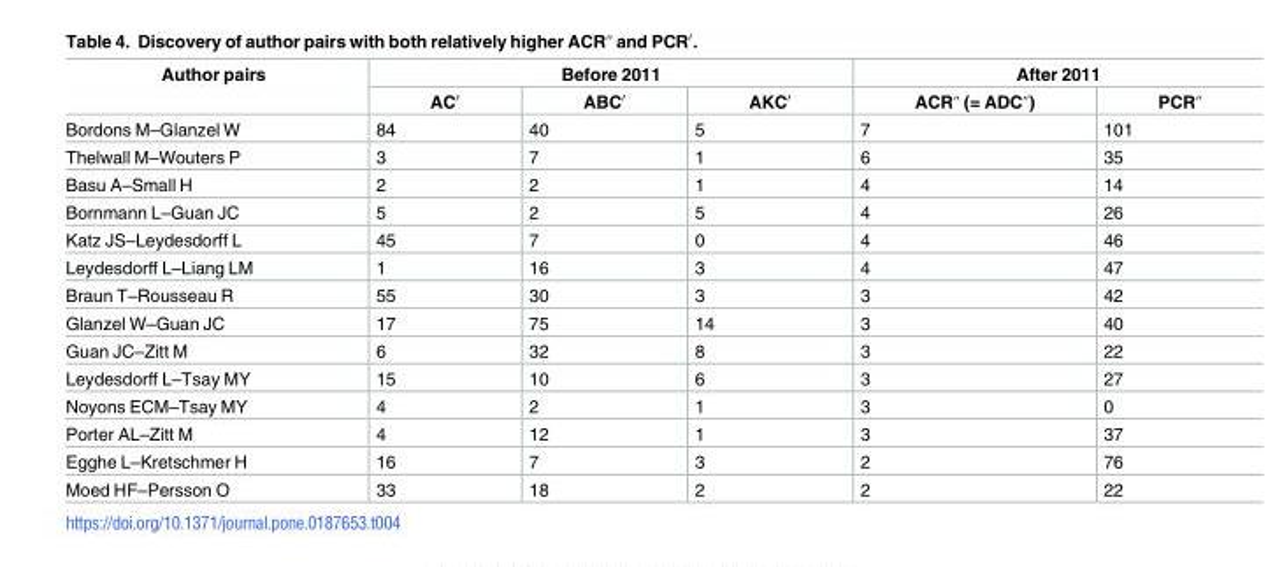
<table><thead><tr><td rowspan="2">Author pairs</td><td colspan="3">Before 2011</td><td colspan="2">After 2011</td></tr><tr><td>AC′</td><td>ABC′</td><td>AKC′</td><td>ACR″ (= ADC″)</td><td>PCR″</td></tr></thead><tbody><tr><td>Bordons M–Glanzel W</td><td>84</td><td>40</td><td>5</td><td>7</td><td>101</td></tr><tr><td>Thelwall M–Wouters P</td><td>3</td><td>7</td><td>1</td><td>6</td><td>35</td></tr><tr><td>Basu A–Small H</td><td>2</td><td>2</td><td>1</td><td>4</td><td>14</td></tr><tr><td>Bornmann L–Guan JC</td><td>5</td><td>2</td><td>5</td><td>4</td><td>26</td></tr><tr><td>Katz JS–Leydesdorff L</td><td>45</td><td>7</td><td>0</td><td>4</td><td>46</td></tr><tr><td>Leydesdorff L–Liang LM</td><td>1</td><td>16</td><td>3</td><td>4</td><td>47</td></tr><tr><td>Braun T–Rousseau R</td><td>55</td><td>30</td><td>3</td><td>3</td><td>42</td></tr><tr><td>Glanzel W–Guan JC</td><td>17</td><td>75</td><td>14</td><td>3</td><td>40</td></tr><tr><td>Guan JC–Zitt M</td><td>6</td><td>32</td><td>8</td><td>3</td><td>22</td></tr><tr><td>Leydesdorff L–Tsay MY</td><td>15</td><td>10</td><td>6</td><td>3</td><td>27</td></tr><tr><td>Noyons ECM–Tsay MY</td><td>4</td><td>2</td><td>1</td><td>3</td><td>0</td></tr><tr><td>Porter AL–Zitt M</td><td>4</td><td>12</td><td>1</td><td>3</td><td>37</td></tr><tr><td>Egghe L–Kretschmer H</td><td>16</td><td>7</td><td>3</td><td>2</td><td>76</td></tr><tr><td>Moed HF–Persson O</td><td>33</td><td>18</td><td>2</td><td>2</td><td>22</td></tr></tbody></table>